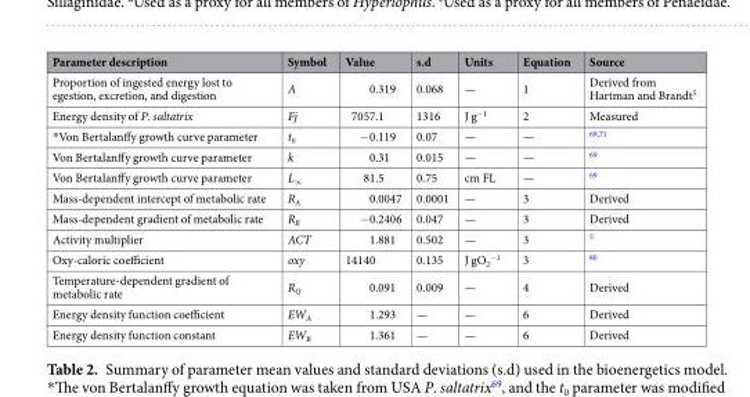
<table><thead><tr><td>Parameter description</td><td>Symbol</td><td>Value</td><td>s.d</td><td>Units</td><td>Equation</td><td>Source</td></tr></thead><tbody><tr><td>Proportion of ingested energy lost to egestion, excretion, and digestion</td><td>A</td><td>0.319</td><td>0.068</td><td>—</td><td>1</td><td>Derived from Hartman and Brandt<sup>5</sup></td></tr><tr><td>Energy density of P. saltatrix</td><td>Fj</td><td>7057.1</td><td>1316</td><td>J g<sup>−1</sup></td><td>2</td><td>Measured</td></tr><tr><td>*Von Bertalanffy growth curve parameter</td><td>t<sub>0</sub></td><td>−0.119</td><td>0.07</td><td>—</td><td>—</td><td><sup>69,71</sup></td></tr><tr><td>Von Bertalanffy growth curve parameter</td><td>k</td><td>0.31</td><td>0.015</td><td>—</td><td>—</td><td><sup>69</sup></td></tr><tr><td>Von Bertalanffy growth curve parameter</td><td>L<sub>∞</sub></td><td>81.5</td><td>0.75</td><td>cm FL</td><td>—</td><td><sup>69</sup></td></tr><tr><td>Mass-dependent intercept of metabolic rate</td><td>R<sub>A</sub></td><td>0.0047</td><td>0.0001</td><td>—</td><td>3</td><td>Derived</td></tr><tr><td>Mass-dependent gradient of metabolic rate</td><td>R<sub>B</sub></td><td>−0.2406</td><td>0.047</td><td>—</td><td>3</td><td>Derived</td></tr><tr><td>Activity multiplier</td><td>ACT</td><td>1.881</td><td>0.502</td><td>—</td><td>3</td><td><sup>5</sup></td></tr><tr><td>Oxy-caloric coefficient</td><td>oxy</td><td>14140</td><td>0.135</td><td>J gO<sub>2</sub> <sup>−1</sup></td><td>3</td><td><sup>80</sup></td></tr><tr><td>Temperature-dependent gradient of metabolic rate</td><td>R<sub>Q</sub></td><td>0.091</td><td>0.009</td><td>—</td><td>4</td><td>Derived</td></tr><tr><td>Energy density function coefficient</td><td>EW<sub>A</sub></td><td>1.293</td><td>—</td><td>—</td><td>6</td><td>Derived</td></tr><tr><td>Energy density function constant</td><td>EW<sub>B</sub></td><td>1.361</td><td>—</td><td>—</td><td>6</td><td>Derived</td></tr></tbody></table>